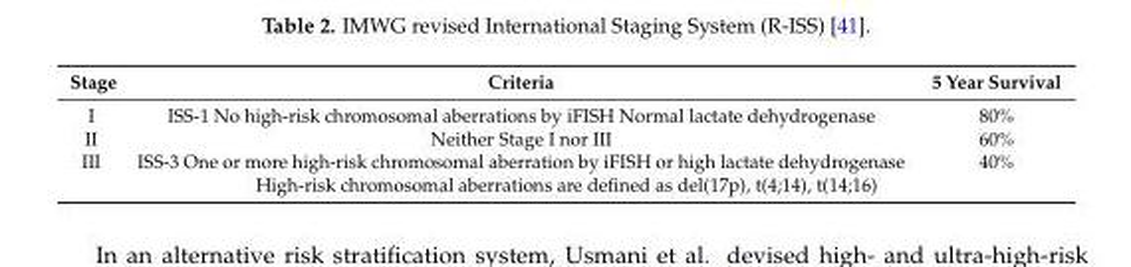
<table><thead><tr><td>Stage</td><td>Criteria</td><td>5 Year Survival</td></tr></thead><tbody><tr><td>I</td><td>ISS-1 No high-risk chromosomal aberrations by iFISH Normal lactate dehydrogenase</td><td>80%</td></tr><tr><td>II</td><td>Neither Stage I nor III</td><td>60%</td></tr><tr><td>III</td><td>ISS-3 One or more high-risk chromosomal aberration by iFISH or high lactate dehydrogenase</td><td>40%</td></tr><tr><td colspan="3">High-risk chromosomal aberrations are defined as del(17p), t(4;14), t(14;16)</td></tr></tbody></table>